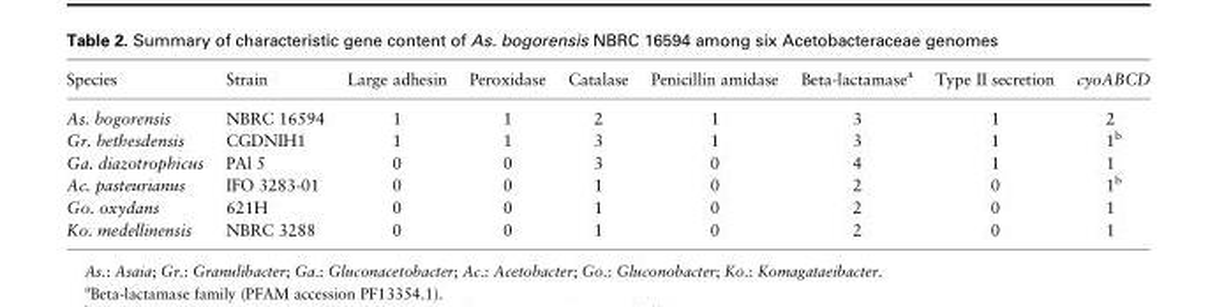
<table><thead><tr><td>Species</td><td>Strain</td><td>Large adhesin</td><td>Peroxidase</td><td>Catalase</td><td>Penicillin amidase</td><td>Beta-lactamase<sup>a</sup></td><td>Type II secretion</td><td>cyoABCD</td></tr></thead><tbody><tr><td>As. bogorensis</td><td>NBRC 16594</td><td>1</td><td>1</td><td>2</td><td>1</td><td>3</td><td>1</td><td>2</td></tr><tr><td>Gr. bethesdensis</td><td>CGDNIH1</td><td>1</td><td>1</td><td>3</td><td>1</td><td>3</td><td>1</td><td>1<sup>b</sup></td></tr><tr><td>Ga. diazotrophicus</td><td>PAl 5</td><td>0</td><td>0</td><td>3</td><td>0</td><td>4</td><td>1</td><td>1</td></tr><tr><td>Ac. pasteurianus</td><td>IFO 3283-01</td><td>0</td><td>0</td><td>1</td><td>0</td><td>2</td><td>0</td><td>1<sup>b</sup></td></tr><tr><td>Go. oxydans</td><td>621H</td><td>0</td><td>0</td><td>1</td><td>0</td><td>2</td><td>0</td><td>1</td></tr><tr><td>Ko. medellinensis</td><td>NBRC 3288</td><td>0</td><td>0</td><td>1</td><td>0</td><td>2</td><td>0</td><td>1</td></tr></tbody></table>